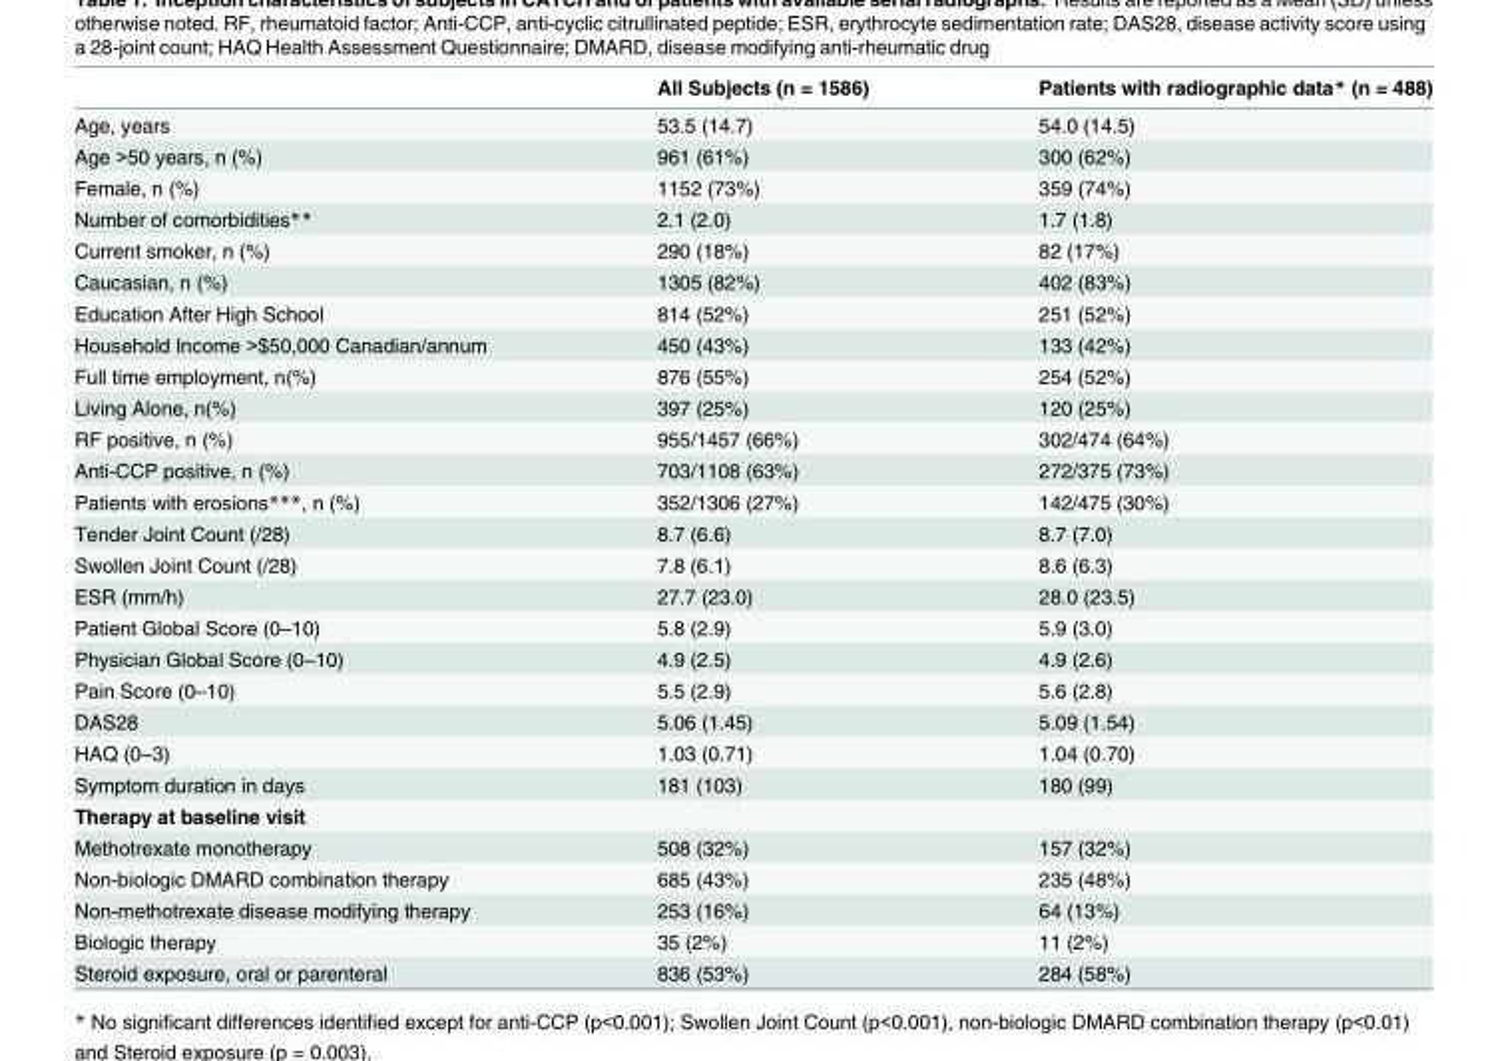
<table><thead><tr><td></td><td>All Subjects (n = 1586)</td><td>Patients with radiographic data* (n = 488)</td></tr></thead><tbody><tr><td>Age, years</td><td>53.5 (14.7)</td><td>54.0 (14.5)</td></tr><tr><td>Age &gt;50 years, n (%)</td><td>961 (61%)</td><td>300 (62%)</td></tr><tr><td>Female, n (%)</td><td>1152 (73%)</td><td>359 (74%)</td></tr><tr><td>Number of comorbidities**</td><td>2.1 (2.0)</td><td>1.7 (1.8)</td></tr><tr><td>Current smoker, n (%)</td><td>290 (18%)</td><td>82 (17%)</td></tr><tr><td>Caucasian, n (%)</td><td>1305 (82%)</td><td>402 (83%)</td></tr><tr><td>Education After High School</td><td>814 (52%)</td><td>251 (52%)</td></tr><tr><td>Household Income &gt;$50,000 Canadian/annum</td><td>450 (43%)</td><td>133 (42%)</td></tr><tr><td>Full time employment, n(%)</td><td>876 (55%)</td><td>254 (52%)</td></tr><tr><td>Living Alone, n(%)</td><td>397 (25%)</td><td>120 (25%)</td></tr><tr><td>RF positive, n (%)</td><td>955/1457 (66%)</td><td>302/474 (64%)</td></tr><tr><td>Anti-CCP positive, n (%)</td><td>703/1108 (63%)</td><td>272/375 (73%)</td></tr><tr><td>Patients with erosions***, n (%)</td><td>352/1306 (27%)</td><td>142/475 (30%)</td></tr><tr><td>Tender Joint Count (/28)</td><td>8.7 (6.6)</td><td>8.7 (7.0)</td></tr><tr><td>Swollen Joint Count (/28)</td><td>7.8 (6.1)</td><td>8.6 (6.3)</td></tr><tr><td>ESR (mm/h)</td><td>27.7 (23.0)</td><td>28.0 (23.5)</td></tr><tr><td>Patient Global Score (0–10)</td><td>5.8 (2.9)</td><td>5.9 (3.0)</td></tr><tr><td>Physician Global Score (0–10)</td><td>4.9 (2.5)</td><td>4.9 (2.6)</td></tr><tr><td>Pain Score (0–10)</td><td>5.5 (2.9)</td><td>5.6 (2.8)</td></tr><tr><td>DAS28</td><td>5.06 (1.45)</td><td>5.09 (1.54)</td></tr><tr><td>HAQ (0–3)</td><td>1.03 (0.71)</td><td>1.04 (0.70)</td></tr><tr><td>Symptom duration in days</td><td>181 (103)</td><td>180 (99)</td></tr><tr><td colspan="3">Therapy at baseline visit</td></tr><tr><td>Methotrexate monotherapy</td><td>508 (32%)</td><td>157 (32%)</td></tr><tr><td>Non-biologic DMARD combination therapy</td><td>685 (43%)</td><td>235 (48%)</td></tr><tr><td>Non-methotrexate disease modifying therapy</td><td>253 (16%)</td><td>64 (13%)</td></tr><tr><td>Biologic therapy</td><td>35 (2%)</td><td>11 (2%)</td></tr><tr><td>Steroid exposure, oral or parenteral</td><td>836 (53%)</td><td>284 (58%)</td></tr></tbody></table>